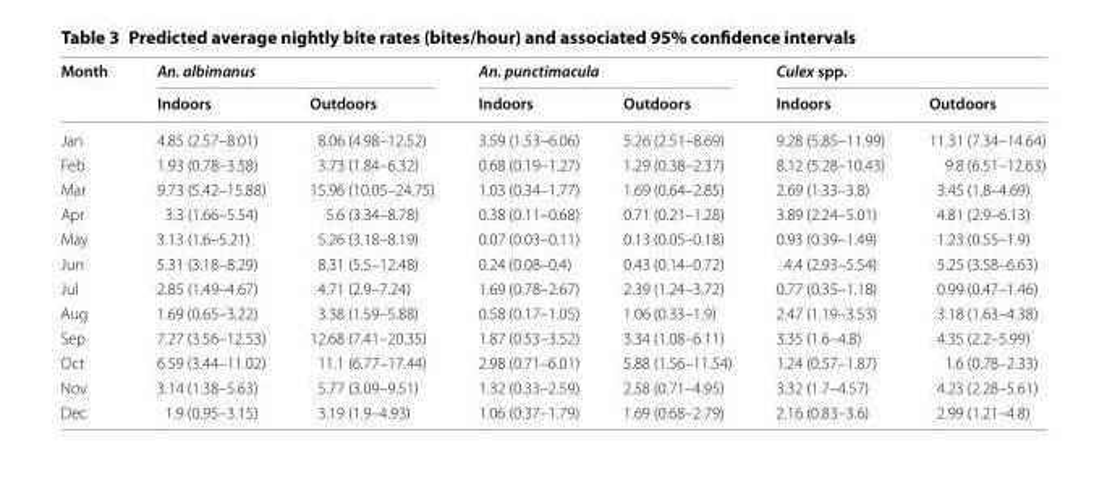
<table><thead><tr><td rowspan="2">Month</td><td colspan="2">An. albimanus</td><td colspan="2">An. punctimacula</td><td colspan="2">Culex spp.</td></tr><tr><td>Indoors</td><td>Outdoors</td><td>Indoors</td><td>Outdoors</td><td>Indoors</td><td>Outdoors</td></tr></thead><tbody><tr><td>Jan</td><td>4.85 (2.57–8.01)</td><td>8.06 (4.98–12.52)</td><td>3.59 (1.53–6.06)</td><td>5.26 (2.51–8.69)</td><td>9.28 (5.85–11.99)</td><td>11.31 (7.34–14.64)</td></tr><tr><td>Feb</td><td>1.93 (0.78–3.58)</td><td>3.73 (1.84–6.32)</td><td>0.68 (0.19–1.27)</td><td>1.29 (0.38–2.37)</td><td>8.12 (5.28–10.43)</td><td>9.8 (6.51–12.63)</td></tr><tr><td>Mar</td><td>9.73 (5.42–15.88)</td><td>15.96 (10.05–24.75)</td><td>1.03 (0.34–1.77)</td><td>1.69 (0.64–2.85)</td><td>2.69 (1.33–3.8)</td><td>3.45 (1.8–4.69)</td></tr><tr><td>Apr</td><td>3.3 (1.66–5.54)</td><td>5.6 (3.34–8.78)</td><td>0.38 (0.11–0.68)</td><td>0.71 (0.21–1.28)</td><td>3.89 (2.24–5.01)</td><td>4.81 (2.9–6.13)</td></tr><tr><td>May</td><td>3.13 (1.6–5.21)</td><td>5.26 (3.18–8.19)</td><td>0.07 (0.03–0.11)</td><td>0.13 (0.05–0.18)</td><td>0.93 (0.39–1.49)</td><td>1.23 (0.55–1.9)</td></tr><tr><td>Jun</td><td>5.31 (3.18–8.29)</td><td>8.31 (5.5–12.48)</td><td>0.24 (0.08–0.4)</td><td>0.43 (0.14–0.72)</td><td>4.4 (2.93–5.54)</td><td>5.25 (3.58–6.63)</td></tr><tr><td>Jul</td><td>2.85 (1.49–4.67)</td><td>4.71 (2.9–7.24)</td><td>1.69 (0.78–2.67)</td><td>2.39 (1.24–3.72)</td><td>0.77 (0.35–1.18)</td><td>0.99 (0.47–1.46)</td></tr><tr><td>Aug</td><td>1.69 (0.65–3.22)</td><td>3.38 (1.59–5.88)</td><td>0.58 (0.17–1.05)</td><td>1.06 (0.33–1.9)</td><td>2.47 (1.19–3.53)</td><td>3.18 (1.63–4.38)</td></tr><tr><td>Sep</td><td>7.27 (3.56–12.53)</td><td>12.68 (7.41–20.35)</td><td>1.87 (0.53–3.52)</td><td>3.34 (1.08–6.11)</td><td>3.35 (1.6–4.8)</td><td>4.35 (2.2–5.99)</td></tr><tr><td>Oct</td><td>6.59 (3.44–11.02)</td><td>11.1 (6.77–17.44)</td><td>2.98 (0.71–6.01)</td><td>5.88 (1.56–11.54)</td><td>1.24 (0.57–1.87)</td><td>1.6 (0.78–2.33)</td></tr><tr><td>Nov</td><td>3.14 (1.38–5.63)</td><td>5.77 (3.09–9.51)</td><td>1.32 (0.33–2.59)</td><td>2.58 (0.71–4.95)</td><td>3.32 (1.7–4.57)</td><td>4.23 (2.28–5.61)</td></tr><tr><td>Dec</td><td>1.9 (0.95–3.15)</td><td>3.19 (1.9–4.93)</td><td>1.06 (0.37–1.79)</td><td>1.69 (0.68–2.79)</td><td>2.16 (0.83–3.6)</td><td>2.99 (1.21–4.8)</td></tr></tbody></table>